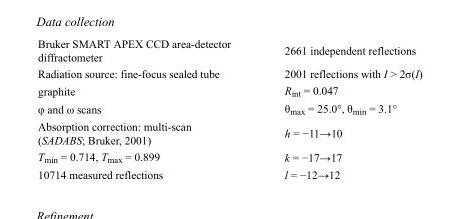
<table><tbody><tr><td>Bruker SMART APEX CCD area-detector diffractometer</td><td>2661 independent reflections</td></tr><tr><td>Radiation source: fine-focus sealed tube</td><td>2001 reflections with I &gt; 2σ(I)</td></tr><tr><td>graphite</td><td>R<sub>int</sub> = 0.047</td></tr><tr><td>φ and ω scans</td><td>θ<sub>max</sub> = 25.0°, θ<sub>min</sub> = 3.1°</td></tr><tr><td>Absorption correction: multi-scan (SADABS; Bruker, 2001)</td><td>h = −11→10</td></tr><tr><td>T<sub>min</sub> = 0.714, T<sub>max</sub> = 0.899</td><td>k = −17→17</td></tr><tr><td>10714 measured reflections</td><td>l = −12→12</td></tr></tbody></table>